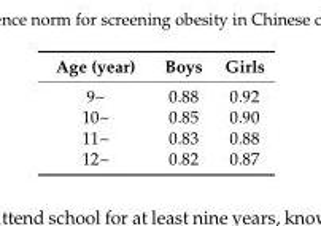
<table><thead><tr><td>Age (year)</td><td>Boys</td><td>Girls</td></tr></thead><tbody><tr><td>9~</td><td>0.88</td><td>0.92</td></tr><tr><td>10~</td><td>0.85</td><td>0.90</td></tr><tr><td>11~</td><td>0.83</td><td>0.88</td></tr><tr><td>12~</td><td>0.82</td><td>0.87</td></tr></tbody></table>